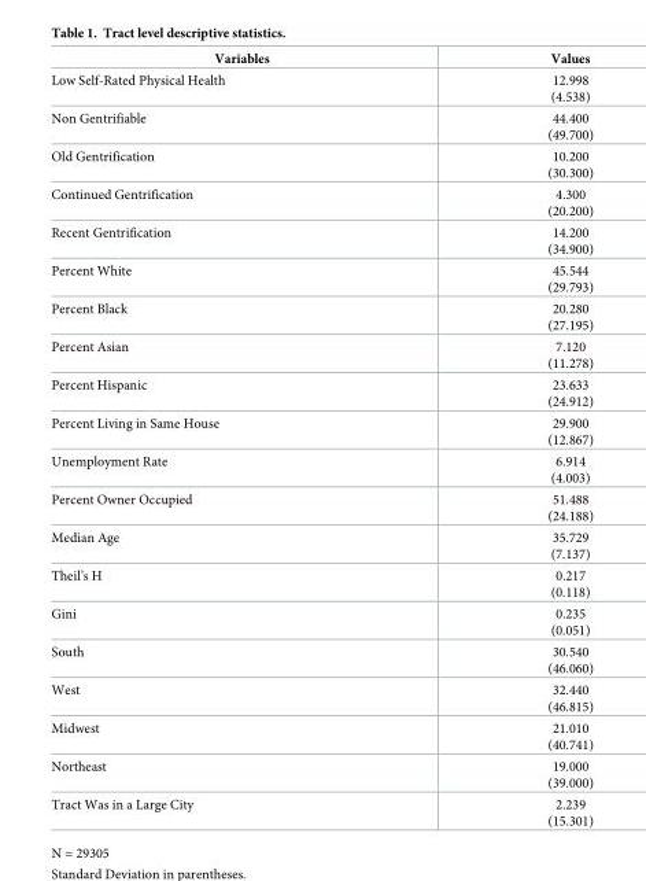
<table><thead><tr><td>Variables</td><td>Values</td></tr></thead><tbody><tr><td>Low Self-Rated Physical Health</td><td>12.998 (4.538)</td></tr><tr><td>Non Gentrifiable</td><td>44.400 (49.700)</td></tr><tr><td>Old Gentrification</td><td>10.200 (30.300)</td></tr><tr><td>Continued Gentrification</td><td>4.300 (20.200)</td></tr><tr><td>Recent Gentrification</td><td>14.200 (34.900)</td></tr><tr><td>Percent White</td><td>45.544 (29.793)</td></tr><tr><td>Percent Black</td><td>20.280 (27.195)</td></tr><tr><td>Percent Asian</td><td>7.120 (11.278)</td></tr><tr><td>Percent Hispanic</td><td>23.633 (24.912)</td></tr><tr><td>Percent Living in Same House</td><td>29.900 (12.867)</td></tr><tr><td>Unemployment Rate</td><td>6.914 (4.003)</td></tr><tr><td>Percent Owner Occupied</td><td>51.488 (24.188)</td></tr><tr><td>Median Age</td><td>35.729 (7.137)</td></tr><tr><td>Theil’s H</td><td>0.217 (0.118)</td></tr><tr><td>Gini</td><td>0.235 (0.051)</td></tr><tr><td>South</td><td>30.540 (46.060)</td></tr><tr><td>West</td><td>32.440 (46.815)</td></tr><tr><td>Midwest</td><td>21.010 (40.741)</td></tr><tr><td>Northeast</td><td>19.000 (39.000)</td></tr><tr><td>Tract Was in a Large City</td><td>2.239 (15.301)</td></tr></tbody></table>